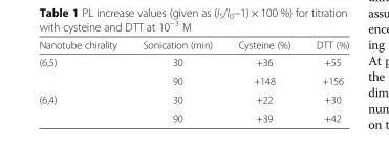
<table><thead><tr><td>Nanotube chirality</td><td>Sonication (min)</td><td>Cysteine (%)</td><td>DTT (%)</td></tr></thead><tbody><tr><td rowspan="2">(6,5)</td><td>30</td><td>+36</td><td>+55</td></tr><tr><td>90</td><td>+148</td><td>+156</td></tr><tr><td rowspan="2">(6,4)</td><td>30</td><td>+22</td><td>+30</td></tr><tr><td>90</td><td>+39</td><td>+42</td></tr></tbody></table>